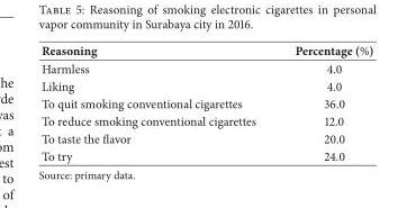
<table><thead><tr><td>Reasoning</td><td>Percentage (%)</td></tr></thead><tbody><tr><td>Harmless</td><td>4.0</td></tr><tr><td>Liking</td><td>4.0</td></tr><tr><td>To quit smoking conventional cigarettes</td><td>36.0</td></tr><tr><td>To reduce smoking conventional cigarettes</td><td>12.0</td></tr><tr><td>To taste the flavor</td><td>20.0</td></tr><tr><td>To try</td><td>24.0</td></tr></tbody></table>